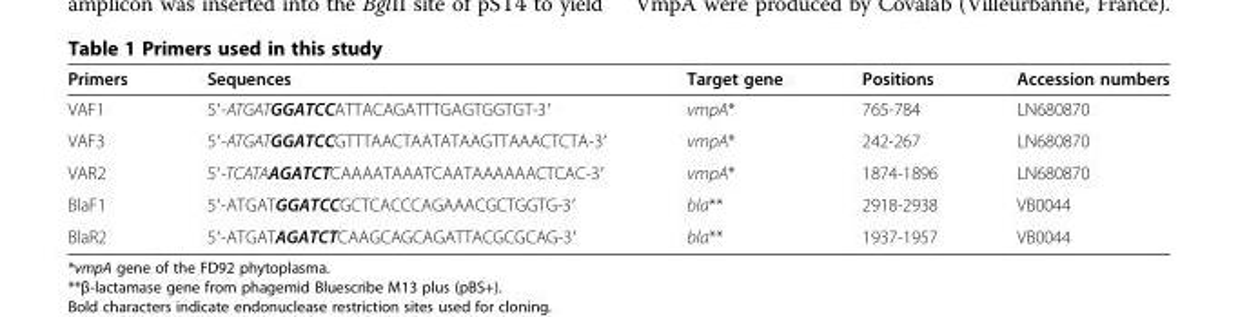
<table><thead><tr><td>Primers</td><td>Sequences</td><td>Target gene</td><td>Positions</td><td>Accession numbers</td></tr></thead><tbody><tr><td>VAF1</td><td>5′-ATGATGGATCCATTACAGATTTGAGTGGTGT-3′</td><td>vmpA*</td><td>765-784</td><td>LN680870</td></tr><tr><td>VAF3</td><td>5′-ATGATGGATCCGTTTAACTAATATAAGTTAAACTCTA-3′</td><td>vmpA*</td><td>242-267</td><td>LN680870</td></tr><tr><td>VAR2</td><td>5′-TCATAAGATCTCAAAATAAATCAATAAAAAACTCAC-3′</td><td>vmpA*</td><td>1874-1896</td><td>LN680870</td></tr><tr><td>BlaF1</td><td>5′-ATGATGGATCCGCTCACCCAGAAACGCTGGTG-3′</td><td>bla**</td><td>2918-2938</td><td>VB0044</td></tr><tr><td>BlaR2</td><td>5′-ATGATAGATCTCAAGCAGCAGATTACGCGCAG-3′</td><td>bla**</td><td>1937-1957</td><td>VB0044</td></tr></tbody></table>